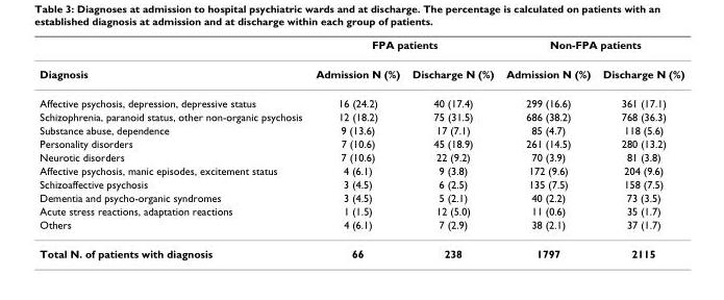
<table><thead><tr><td rowspan="2">Diagnosis</td><td colspan="2">FPA patients</td><td colspan="2">Non-FPA patients</td></tr><tr><td>Admission N (%)</td><td>Discharge N (%)</td><td>Admission N (%)</td><td>Discharge N (%)</td></tr></thead><tbody><tr><td>Affective psychosis, depression, depressive status</td><td>16 (24.2)</td><td>40 (17.4)</td><td>299 (16.6)</td><td>361 (17.1)</td></tr><tr><td>Schizophrenia, paranoid status, other non-organic psychosis</td><td>12 (18.2)</td><td>75 (31.5)</td><td>686 (38.2)</td><td>768 (36.3)</td></tr><tr><td>Substance abuse, dependence</td><td>9 (13.6)</td><td>17 (7.1)</td><td>85 (4.7)</td><td>118 (5.6)</td></tr><tr><td>Personality disorders</td><td>7 (10.6)</td><td>45 (18.9)</td><td>261 (14.5)</td><td>280 (13.2)</td></tr><tr><td>Neurotic disorders</td><td>7 (10.6)</td><td>22 (9.2)</td><td>70 (3.9)</td><td>81 (3.8)</td></tr><tr><td>Affective psychosis, manic episodes, excitement status</td><td>4 (6.1)</td><td>9 (3.8)</td><td>172 (9.6)</td><td>204 (9.6)</td></tr><tr><td>Schizoaffective psychosis</td><td>3 (4.5)</td><td>6 (2.5)</td><td>135 (7.5)</td><td>158 (7.5)</td></tr><tr><td>Dementia and psycho-organic syndromes</td><td>3 (4.5)</td><td>5 (2.1)</td><td>40 (2.2)</td><td>73 (3.5)</td></tr><tr><td>Acute stress reactions, adaptation reactions</td><td>1 (1.5)</td><td>12 (5.0)</td><td>11 (0.6)</td><td>35 (1.7)</td></tr><tr><td>Others</td><td>4 (6.1)</td><td>7 (2.9)</td><td>38 (2.1)</td><td>37 (1.7)</td></tr><tr><td>Total N. of patients with diagnosis</td><td>66</td><td>238</td><td>1797</td><td>2115</td></tr></tbody></table>